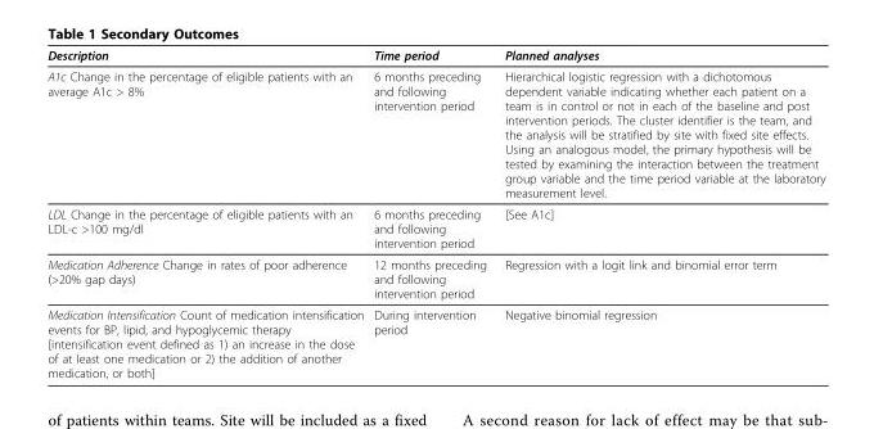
<table><thead><tr><td>Description</td><td>Time period</td><td>Planned analyses</td></tr></thead><tbody><tr><td>A1c Change in the percentage of eligible patients with an average A1c &gt; 8%</td><td>6 months preceding and following intervention period</td><td>Hierarchical logistic regression with a dichotomous dependent variable indicating whether each patient on a team is in control or not in each of the baseline and post intervention periods. The cluster identifier is the team, and the analysis will be stratified by site with fixed site effects. Using an analogous model, the primary hypothesis will be tested by examining the interaction between the treatment group variable and the time period variable at the laboratory measurement level.</td></tr><tr><td>LDL Change in the percentage of eligible patients with an LDL-c &gt;100 mg/dl</td><td>6 months preceding and following intervention period</td><td>[See A1c]</td></tr><tr><td>Medication Adherence Change in rates of poor adherence (&gt;20% gap days)</td><td>12 months preceding and following intervention period</td><td>Regression with a logit link and binomial error term</td></tr><tr><td>Medication Intensification Count of medication intensification events for BP, lipid, and hypoglycemic therapy [intensification event defined as 1) an increase in the dose of at least one medication or 2) the addition of another medication, or both]</td><td>During intervention period</td><td>Negative binomial regression</td></tr></tbody></table>